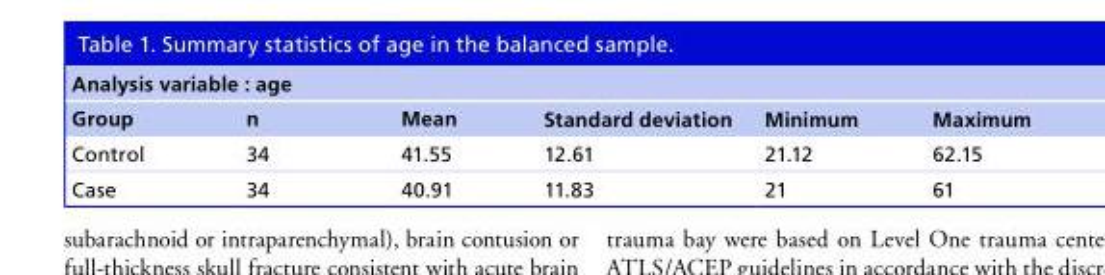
<table><thead><tr><td colspan="6">Analysis variable : age</td></tr><tr><td>Group</td><td>n</td><td>Mean</td><td>Standard deviation</td><td>Minimum</td><td>Maximum</td></tr></thead><tbody><tr><td>Control</td><td>34</td><td>41.55</td><td>12.61</td><td>21.12</td><td>62.15</td></tr><tr><td>Case</td><td>34</td><td>40.91</td><td>11.83</td><td>21</td><td>61</td></tr></tbody></table>